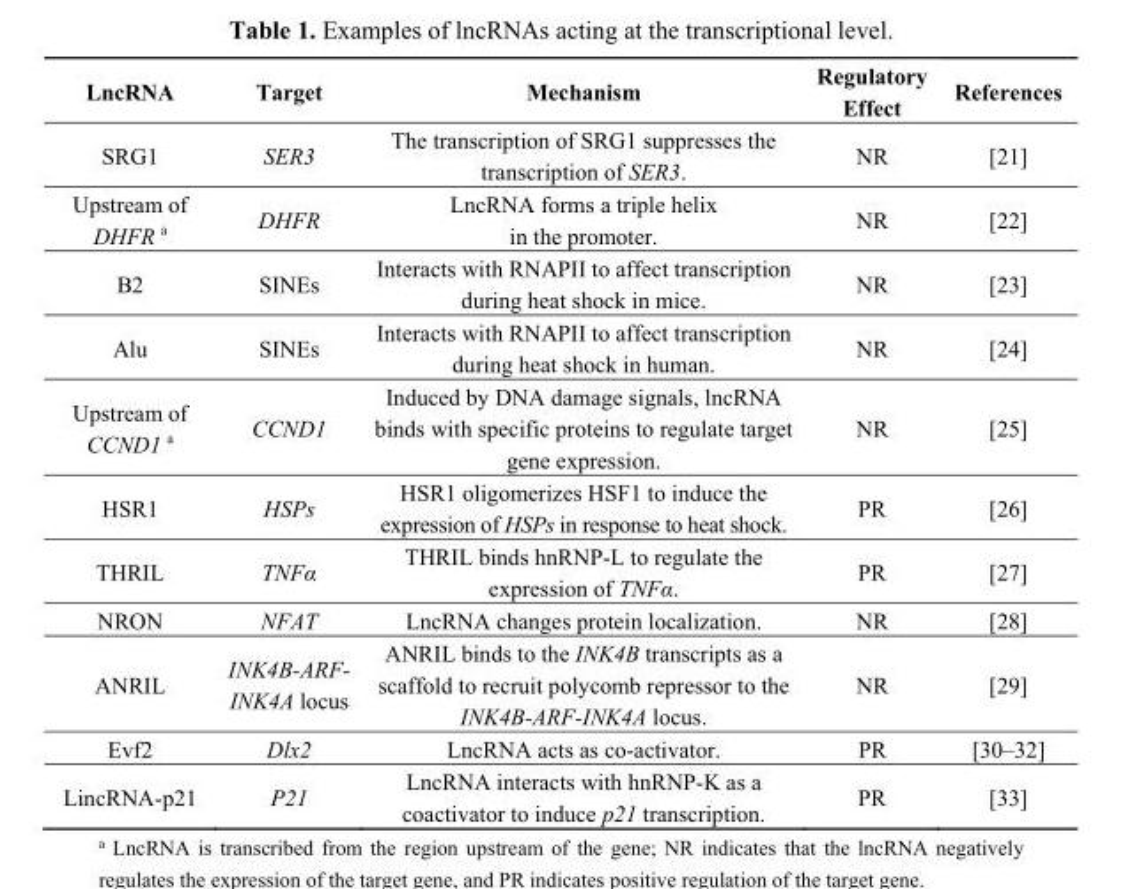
<table><thead><tr><td>LncRNA</td><td>Target</td><td>Mechanism</td><td>Regulatory Effect</td><td>References</td></tr></thead><tbody><tr><td>SRG1</td><td>SER3</td><td>The transcription of SRG1 suppresses the transcription of SER3.</td><td>NR</td><td>[21]</td></tr><tr><td>Upstream of DHFR <sup>a</sup></td><td>DHFR</td><td>LncRNA forms a triple helix in the promoter.</td><td>NR</td><td>[22]</td></tr><tr><td>B2</td><td>SINEs</td><td>Interacts with RNAPII to affect transcription during heat shock in mice.</td><td>NR</td><td>[23]</td></tr><tr><td>Alu</td><td>SINEs</td><td>Interacts with RNAPII to affect transcription during heat shock in human.</td><td>NR</td><td>[24]</td></tr><tr><td>Upstream of CCND1 <sup>a</sup></td><td>CCND1</td><td>Induced by DNA damage signals, lncRNA binds with specific proteins to regulate target gene expression.</td><td>NR</td><td>[25]</td></tr><tr><td>HSR1</td><td>HSPs</td><td>HSR1 oligomerizes HSF1 to induce the expression of HSPs in response to heat shock.</td><td>PR</td><td>[26]</td></tr><tr><td>THRIL</td><td>TNFα</td><td>THRIL binds hnRNP-L to regulate the expression of TNFα.</td><td>PR</td><td>[27]</td></tr><tr><td>NRON</td><td>NFAT</td><td>LncRNA changes protein localization.</td><td>NR</td><td>[28]</td></tr><tr><td>ANRIL</td><td>INK4B-ARF- INK4A locus</td><td>ANRIL binds to the INK4B transcripts as a scaffold to recruit polycomb repressor to the INK4B-ARF-INK4A locus.</td><td>NR</td><td>[29]</td></tr><tr><td>Evf2</td><td>Dlx2</td><td>LncRNA acts as co-activator.</td><td>PR</td><td>[30–32]</td></tr><tr><td>LincRNA-p21</td><td>P21</td><td>LncRNA interacts with hnRNP-K as a coactivator to induce p21 transcription.</td><td>PR</td><td>[33]</td></tr></tbody></table>